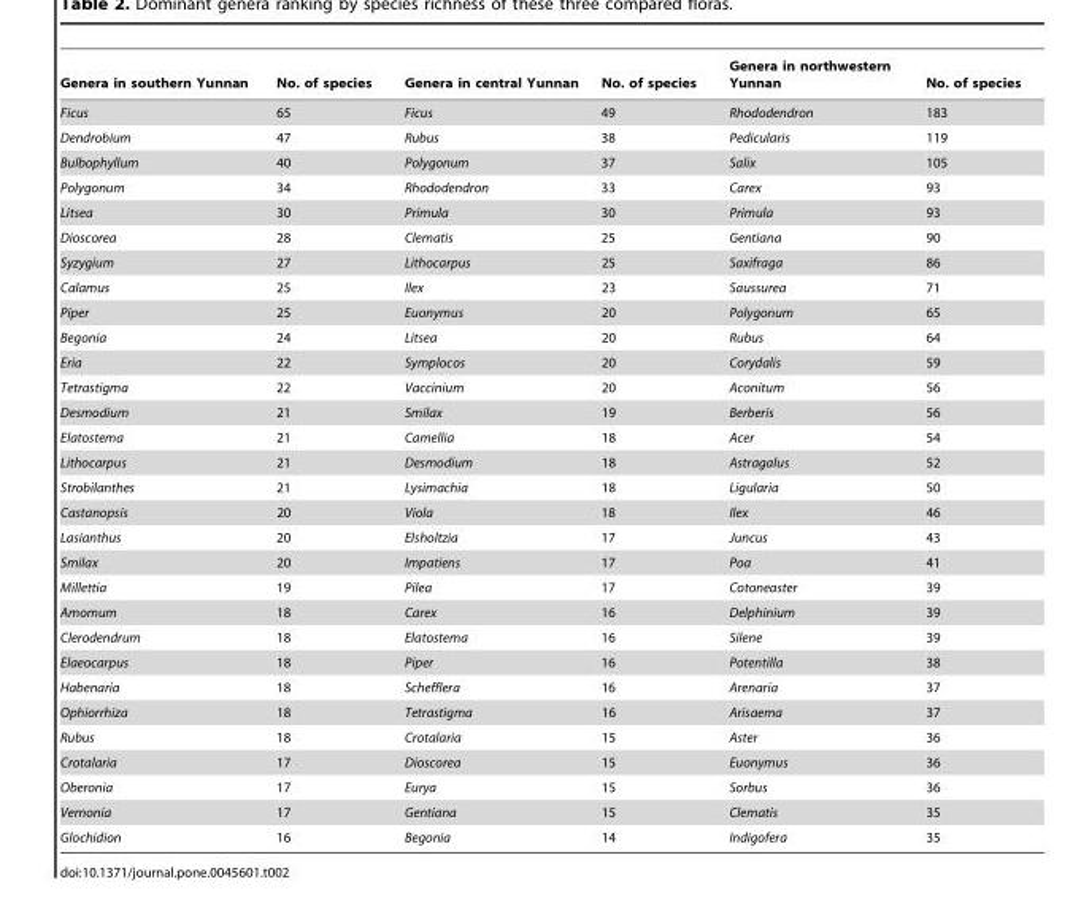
<table><thead><tr><td>Genera in southern Yunnan</td><td>No. of species</td><td>Genera in central Yunnan</td><td>No. of species</td><td>Genera in northwestern Yunnan</td><td>No. of species</td></tr></thead><tbody><tr><td>Ficus</td><td>65</td><td>Ficus</td><td>49</td><td>Rhododendron</td><td>183</td></tr><tr><td>Dendrobium</td><td>47</td><td>Rubus</td><td>38</td><td>Pedicularis</td><td>119</td></tr><tr><td>Bulbophyllum</td><td>40</td><td>Polygonum</td><td>37</td><td>Salix</td><td>105</td></tr><tr><td>Polygonum</td><td>34</td><td>Rhododendron</td><td>33</td><td>Carex</td><td>93</td></tr><tr><td>Litsea</td><td>30</td><td>Primula</td><td>30</td><td>Primula</td><td>93</td></tr><tr><td>Dioscorea</td><td>28</td><td>Clematis</td><td>25</td><td>Gentiana</td><td>90</td></tr><tr><td>Syzygium</td><td>27</td><td>Lithocarpus</td><td>25</td><td>Saxifraga</td><td>86</td></tr><tr><td>Calamus</td><td>25</td><td>Ilex</td><td>23</td><td>Saussurea</td><td>71</td></tr><tr><td>Piper</td><td>25</td><td>Euonymus</td><td>20</td><td>Polygonum</td><td>65</td></tr><tr><td>Begonia</td><td>24</td><td>Litsea</td><td>20</td><td>Rubus</td><td>64</td></tr><tr><td>Eria</td><td>22</td><td>Symplocos</td><td>20</td><td>Corydalis</td><td>59</td></tr><tr><td>Tetrastigma</td><td>22</td><td>Vaccinium</td><td>20</td><td>Aconitum</td><td>56</td></tr><tr><td>Desmodium</td><td>21</td><td>Smilax</td><td>19</td><td>Berberis</td><td>56</td></tr><tr><td>Elatostema</td><td>21</td><td>Camellia</td><td>18</td><td>Acer</td><td>54</td></tr><tr><td>Lithocarpus</td><td>21</td><td>Desmodium</td><td>18</td><td>Astragalus</td><td>52</td></tr><tr><td>Strobilanthes</td><td>21</td><td>Lysimachia</td><td>18</td><td>Ligularia</td><td>50</td></tr><tr><td>Castanopsis</td><td>20</td><td>Viola</td><td>18</td><td>Ilex</td><td>46</td></tr><tr><td>Lasianthus</td><td>20</td><td>Elsholtzia</td><td>17</td><td>Juncus</td><td>43</td></tr><tr><td>Smilax</td><td>20</td><td>Impatiens</td><td>17</td><td>Poa</td><td>41</td></tr><tr><td>Millettia</td><td>19</td><td>Pilea</td><td>17</td><td>Cotoneaster</td><td>39</td></tr><tr><td>Amomum</td><td>18</td><td>Carex</td><td>16</td><td>Delphinium</td><td>39</td></tr><tr><td>Clerodendrum</td><td>18</td><td>Elatostema</td><td>16</td><td>Silene</td><td>39</td></tr><tr><td>Elaeocarpus</td><td>18</td><td>Piper</td><td>16</td><td>Potentilla</td><td>38</td></tr><tr><td>Habenaria</td><td>18</td><td>Schefflera</td><td>16</td><td>Arenaria</td><td>37</td></tr><tr><td>Ophiorrhiza</td><td>18</td><td>Tetrastigma</td><td>16</td><td>Arisaema</td><td>37</td></tr><tr><td>Rubus</td><td>18</td><td>Crotalaria</td><td>15</td><td>Aster</td><td>36</td></tr><tr><td>Crotalaria</td><td>17</td><td>Dioscorea</td><td>15</td><td>Euonymus</td><td>36</td></tr><tr><td>Oberonia</td><td>17</td><td>Eurya</td><td>15</td><td>Sorbus</td><td>36</td></tr><tr><td>Vernonia</td><td>17</td><td>Gentiana</td><td>15</td><td>Clematis</td><td>35</td></tr><tr><td>Glochidion</td><td>16</td><td>Begonia</td><td>14</td><td>Indigofera</td><td>35</td></tr></tbody></table>